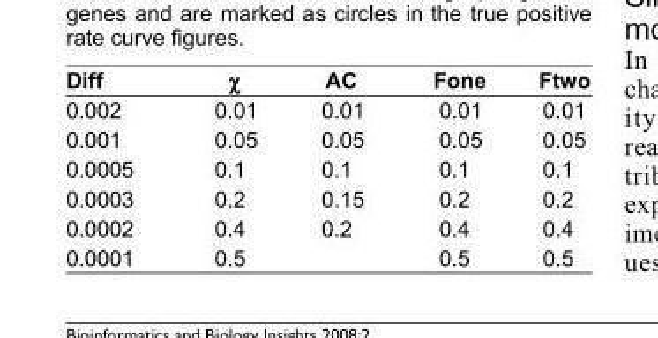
<table><thead><tr><td>Diff</td><td>χ</td><td>AC</td><td>Fone</td><td>Ftwo</td></tr></thead><tbody><tr><td>0.002</td><td>0.01</td><td>0.01</td><td>0.01</td><td>0.01</td></tr><tr><td>0.001</td><td>0.05</td><td>0.05</td><td>0.05</td><td>0.05</td></tr><tr><td>0.0005</td><td>0.1</td><td>0.1</td><td>0.1</td><td>0.1</td></tr><tr><td>0.0003</td><td>0.2</td><td>0.15</td><td>0.2</td><td>0.2</td></tr><tr><td>0.0002</td><td>0.4</td><td>0.2</td><td>0.4</td><td>0.4</td></tr><tr><td>0.0001</td><td>0.5</td><td></td><td>0.5</td><td>0.5</td></tr></tbody></table>